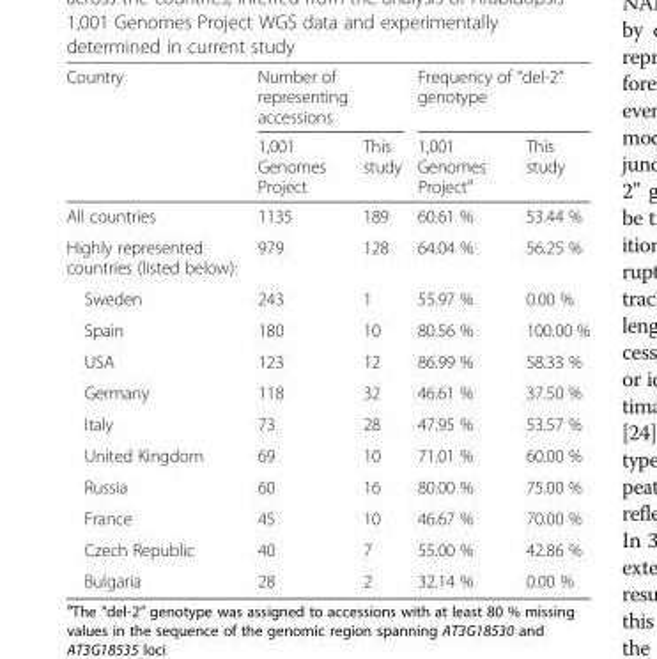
<table><thead><tr><td rowspan="2">Country</td><td colspan="2">Number of representing accessions</td><td colspan="2">Frequency of “del-2” genotype</td></tr><tr><td>1,001 Genomes Project</td><td>This study</td><td>1,001 Genomes Project<sup>a</sup></td><td>This study</td></tr></thead><tbody><tr><td>All countries</td><td>1135</td><td>189</td><td>60.61 %</td><td>53.44 %</td></tr><tr><td>Highly represented countries (listed below):</td><td>979</td><td>128</td><td>64.04 %</td><td>56.25 %</td></tr><tr><td>Sweden</td><td>243</td><td>1</td><td>55.97 %</td><td>0.00 %</td></tr><tr><td>Spain</td><td>180</td><td>10</td><td>80.56 %</td><td>100.00 %</td></tr><tr><td>USA</td><td>123</td><td>12</td><td>86.99 %</td><td>58.33 %</td></tr><tr><td>Germany</td><td>118</td><td>32</td><td>46.61 %</td><td>37.50 %</td></tr><tr><td>Italy</td><td>73</td><td>28</td><td>47.95 %</td><td>53.57 %</td></tr><tr><td>United Kingdom</td><td>69</td><td>10</td><td>71.01 %</td><td>60.00 %</td></tr><tr><td>Russia</td><td>60</td><td>16</td><td>80.00 %</td><td>75.00 %</td></tr><tr><td>France</td><td>45</td><td>10</td><td>46.67 %</td><td>70.00 %</td></tr><tr><td>Czech Republic</td><td>40</td><td>7</td><td>55.00 %</td><td>42.86 %</td></tr><tr><td>Bulgaria</td><td>28</td><td>2</td><td>32.14 %</td><td>0.00 %</td></tr></tbody></table>